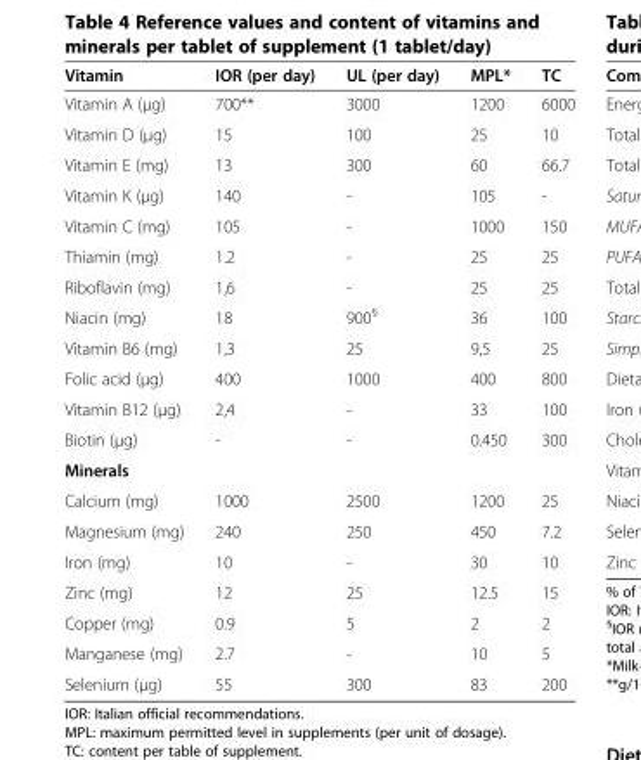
<table><thead><tr><td>Vitamin</td><td>IOR (per day)</td><td>UL (per day)</td><td>MPL*</td><td>TC</td></tr></thead><tbody><tr><td>Vitamin A (μg)</td><td>700**</td><td>3000</td><td>1200</td><td>6000</td></tr><tr><td>Vitamin D (μg)</td><td>15</td><td>100</td><td>25</td><td>10</td></tr><tr><td>Vitamin E (mg)</td><td>13</td><td>300</td><td>60</td><td>66.7</td></tr><tr><td>Vitamin K (μg)</td><td>140</td><td>-</td><td>105</td><td>-</td></tr><tr><td>Vitamin C (mg)</td><td>105</td><td>-</td><td>1000</td><td>150</td></tr><tr><td>Thiamin (mg)</td><td>1.2</td><td>-</td><td>25</td><td>25</td></tr><tr><td>Riboflavin (mg)</td><td>1,6</td><td>-</td><td>25</td><td>25</td></tr><tr><td>Niacin (mg)</td><td>18</td><td>900<sup>§</sup></td><td>36</td><td>100</td></tr><tr><td>Vitamin B6 (mg)</td><td>1,3</td><td>25</td><td>9,5</td><td>25</td></tr><tr><td>Folic acid (μg)</td><td>400</td><td>1000</td><td>400</td><td>800</td></tr><tr><td>Vitamin B12 (μg)</td><td>2,4</td><td>-</td><td>33</td><td>100</td></tr><tr><td>Biotin (μg)</td><td>-</td><td>-</td><td>0.450</td><td>300</td></tr><tr><td colspan="5">Minerals</td></tr><tr><td>Calcium (mg)</td><td>1000</td><td>2500</td><td>1200</td><td>25</td></tr><tr><td>Magnesium (mg)</td><td>240</td><td>250</td><td>450</td><td>7.2</td></tr><tr><td>Iron (mg)</td><td>10</td><td>-</td><td>30</td><td>10</td></tr><tr><td>Zinc (mg)</td><td>12</td><td>25</td><td>12.5</td><td>15</td></tr><tr><td>Copper (mg)</td><td>0.9</td><td>5</td><td>2</td><td>2</td></tr><tr><td>Manganese (mg)</td><td>2.7</td><td>-</td><td>10</td><td>5</td></tr><tr><td>Selenium (μg)</td><td>55</td><td>300</td><td>83</td><td>200</td></tr></tbody></table>